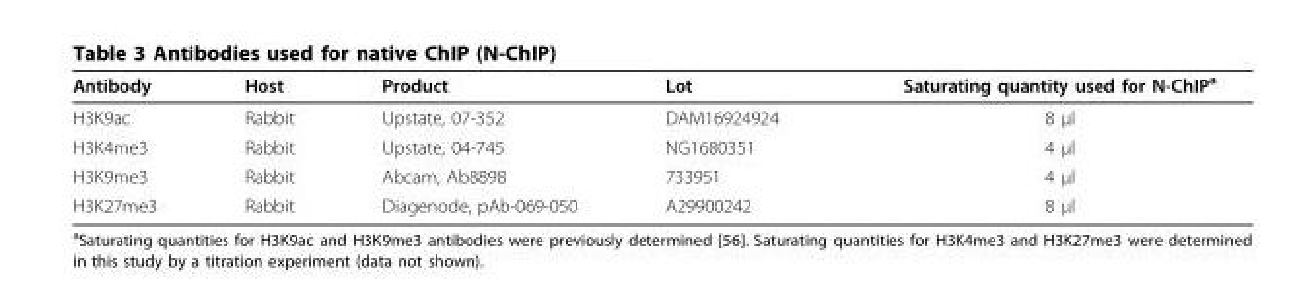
<table><thead><tr><td>Antibody</td><td>Host</td><td>Product</td><td>Lot</td><td>Saturating quantity used for N-ChIP<sup>a</sup></td></tr></thead><tbody><tr><td>H3K9ac</td><td>Rabbit</td><td>Upstate, 07-352</td><td>DAM16924924</td><td>8 µl</td></tr><tr><td>H3K4me3</td><td>Rabbit</td><td>Upstate, 04-745</td><td>NG1680351</td><td>4 µl</td></tr><tr><td>H3K9me3</td><td>Rabbit</td><td>Abcam, Ab8898</td><td>733951</td><td>4 µl</td></tr><tr><td>H3K27me3</td><td>Rabbit</td><td>Diagenode, pAb-069-050</td><td>A29900242</td><td>8 µl</td></tr></tbody></table>